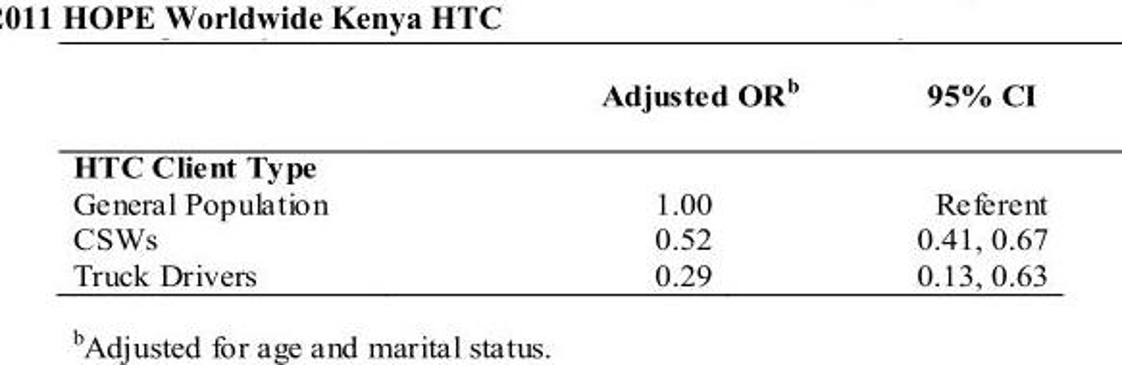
<table><thead><tr><td></td><td>Adjusted OR<sup>b</sup></td><td>95% CI</td></tr></thead><tbody><tr><td colspan="3">HTC Client Type</td></tr><tr><td>General Population</td><td>1.00</td><td>Referent</td></tr><tr><td>CSWs</td><td>0.52</td><td>0.41, 0.67</td></tr><tr><td>Truck Drivers</td><td>0.29</td><td>0.13, 0.63</td></tr></tbody></table>